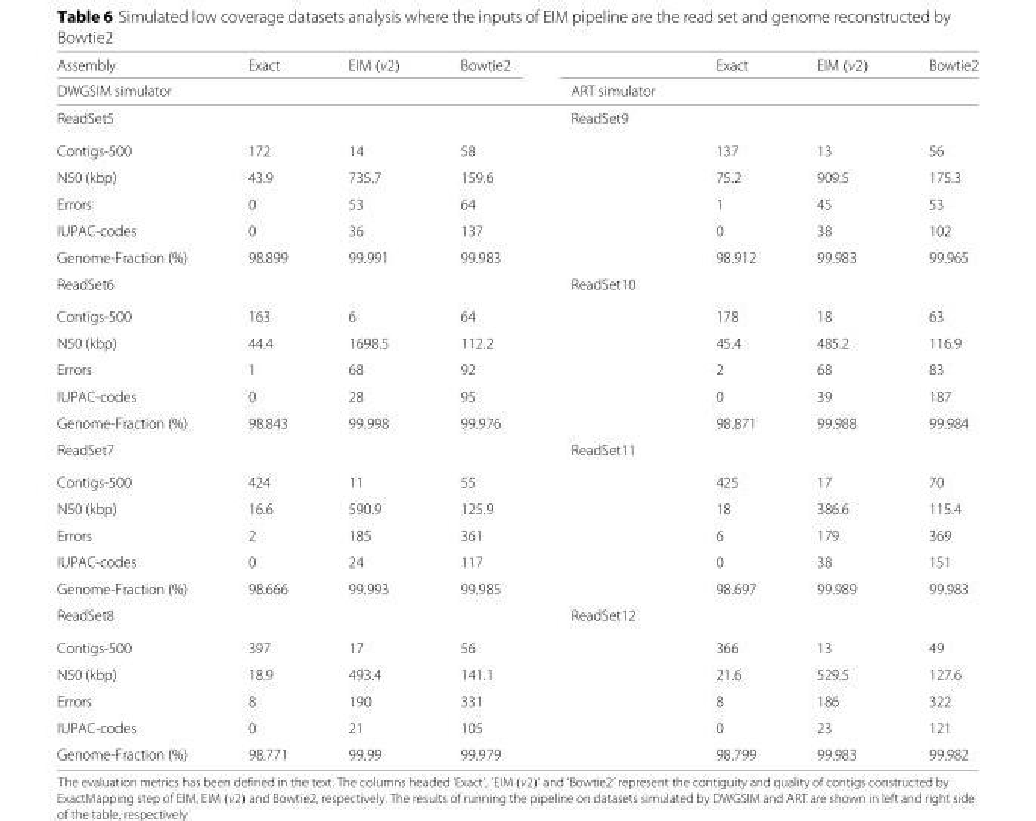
<table><thead><tr><td rowspan="2">Assembly DWGSIM simulator</td><td rowspan="2">Exact</td><td rowspan="2">EIM (v2)</td><td rowspan="2">Bowtie2</td><td rowspan="2">ART simulator</td><td rowspan="2">Exact</td><td rowspan="2">EIM (v2)</td><td rowspan="2">Bowtie2</td></tr><tr></tr></thead><tbody><tr><td>ReadSet5</td><td></td><td></td><td></td><td>ReadSet9</td><td></td><td></td><td></td></tr><tr><td>Contigs-500</td><td>172</td><td>14</td><td>58</td><td></td><td>137</td><td>13</td><td>56</td></tr><tr><td>N50 (kbp)</td><td>43.9</td><td>735.7</td><td>159.6</td><td></td><td>75.2</td><td>909.5</td><td>175.3</td></tr><tr><td>Errors</td><td>0</td><td>53</td><td>64</td><td></td><td>1</td><td>45</td><td>53</td></tr><tr><td>IUPAC-codes</td><td>0</td><td>36</td><td>137</td><td></td><td>0</td><td>38</td><td>102</td></tr><tr><td>Genome-Fraction (%)</td><td>98.899</td><td>99.991</td><td>99.983</td><td></td><td>98.912</td><td>99.983</td><td>99.965</td></tr><tr><td>ReadSet6</td><td></td><td></td><td></td><td>ReadSet10</td><td></td><td></td><td></td></tr><tr><td>Contigs-500</td><td>163</td><td>6</td><td>64</td><td></td><td>178</td><td>18</td><td>63</td></tr><tr><td>N50 (kbp)</td><td>44.4</td><td>1698.5</td><td>112.2</td><td></td><td>45.4</td><td>485.2</td><td>116.9</td></tr><tr><td>Errors</td><td>1</td><td>68</td><td>92</td><td></td><td>2</td><td>68</td><td>83</td></tr><tr><td>IUPAC-codes</td><td>0</td><td>28</td><td>95</td><td></td><td>0</td><td>39</td><td>187</td></tr><tr><td>Genome-Fraction (%)</td><td>98.843</td><td>99.998</td><td>99.976</td><td></td><td>98.871</td><td>99.988</td><td>99.984</td></tr><tr><td>ReadSet7</td><td></td><td></td><td></td><td>ReadSet11</td><td></td><td></td><td></td></tr><tr><td>Contigs-500</td><td>424</td><td>11</td><td>55</td><td></td><td>425</td><td>17</td><td>70</td></tr><tr><td>N50 (kbp)</td><td>16.6</td><td>590.9</td><td>125.9</td><td></td><td>18</td><td>386.6</td><td>115.4</td></tr><tr><td>Errors</td><td>2</td><td>185</td><td>361</td><td></td><td>6</td><td>179</td><td>369</td></tr><tr><td>IUPAC-codes</td><td>0</td><td>24</td><td>117</td><td></td><td>0</td><td>38</td><td>151</td></tr><tr><td>Genome-Fraction (%)</td><td>98.666</td><td>99.993</td><td>99.985</td><td></td><td>98.697</td><td>99.989</td><td>99.983</td></tr><tr><td>ReadSet8</td><td></td><td></td><td></td><td>ReadSet12</td><td></td><td></td><td></td></tr><tr><td>Contigs-500</td><td>397</td><td>17</td><td>56</td><td></td><td>366</td><td>13</td><td>49</td></tr><tr><td>N50 (kbp)</td><td>18.9</td><td>493.4</td><td>141.1</td><td></td><td>21.6</td><td>529.5</td><td>127.6</td></tr><tr><td>Errors</td><td>8</td><td>190</td><td>331</td><td></td><td>8</td><td>186</td><td>322</td></tr><tr><td>IUPAC-codes</td><td>0</td><td>21</td><td>105</td><td></td><td>0</td><td>23</td><td>121</td></tr><tr><td>Genome-Fraction (%)</td><td>98.771</td><td>99.99</td><td>99.979</td><td></td><td>98.799</td><td>99.983</td><td>99.982</td></tr></tbody></table>